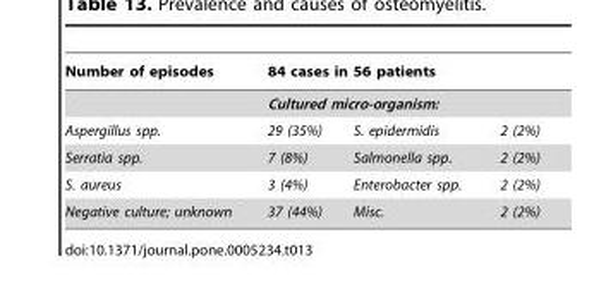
<table><thead><tr><td rowspan="3">Number of episodes Aspergillus spp.</td><td rowspan="2" colspan="3">84 cases in 56 patients Cultured micro-organism:</td></tr><tr></tr><tr><td>29 (35%)</td><td>S. epidermidis</td><td>2 (2%)</td></tr></thead><tbody><tr><td>Serratia spp.</td><td>7 (8%)</td><td>Salmonella spp.</td><td>2 (2%)</td></tr><tr><td>S. aureus</td><td>3 (4%)</td><td>Enterobacter spp.</td><td>2 (2%)</td></tr><tr><td>Negative culture; unknown</td><td>37 (44%)</td><td>Misc.</td><td>2 (2%)</td></tr></tbody></table>